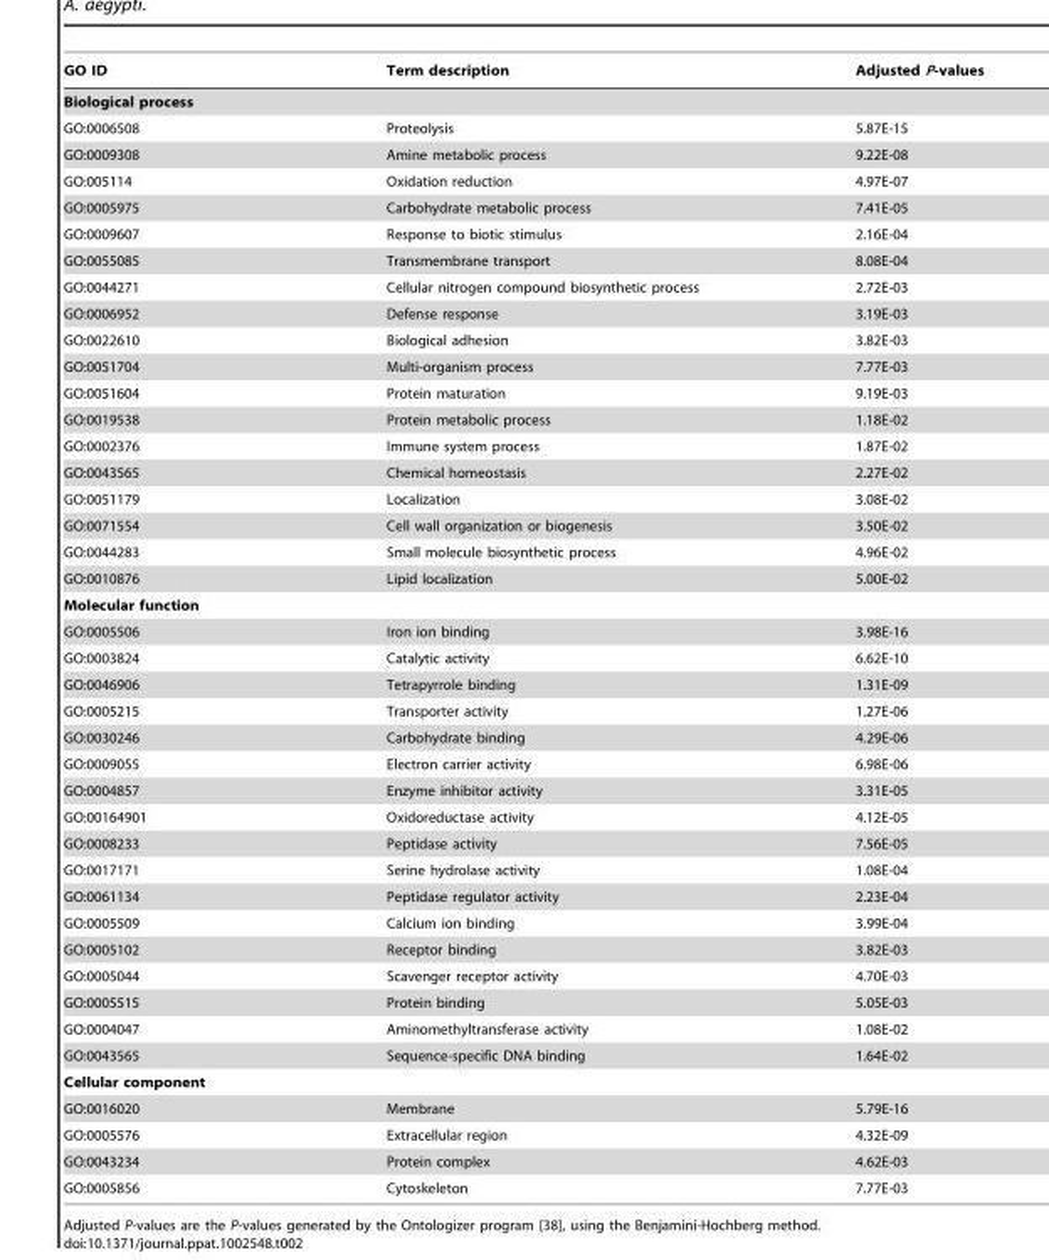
<table><thead><tr><td>GO ID</td><td>Term description</td><td>Adjusted P-values</td></tr></thead><tbody><tr><td colspan="3">Biological process</td></tr><tr><td>GO:0006508</td><td>Proteolysis</td><td>5.87E-15</td></tr><tr><td>GO:0009308</td><td>Amine metabolic process</td><td>9.22E-08</td></tr><tr><td>GO:005114</td><td>Oxidation reduction</td><td>4.97E-07</td></tr><tr><td>GO:0005975</td><td>Carbohydrate metabolic process</td><td>7.41E-05</td></tr><tr><td>GO:0009607</td><td>Response to biotic stimulus</td><td>2.16E-04</td></tr><tr><td>GO:0055085</td><td>Transmembrane transport</td><td>8.08E-04</td></tr><tr><td>GO:0044271</td><td>Cellular nitrogen compound biosynthetic process</td><td>2.72E-03</td></tr><tr><td>GO:0006952</td><td>Defense response</td><td>3.19E-03</td></tr><tr><td>GO:0022610</td><td>Biological adhesion</td><td>3.82E-03</td></tr><tr><td>GO:0051704</td><td>Multi-organism process</td><td>7.77E-03</td></tr><tr><td>GO:0051604</td><td>Protein maturation</td><td>9.19E-03</td></tr><tr><td>GO:0019538</td><td>Protein metabolic process</td><td>1.18E-02</td></tr><tr><td>GO:0002376</td><td>Immune system process</td><td>1.87E-02</td></tr><tr><td>GO:0043565</td><td>Chemical homeostasis</td><td>2.27E-02</td></tr><tr><td>GO:0051179</td><td>Localization</td><td>3.08E-02</td></tr><tr><td>GO:0071554</td><td>Cell wall organization or biogenesis</td><td>3.50E-02</td></tr><tr><td>GO:0044283</td><td>Small molecule biosynthetic process</td><td>4.96E-02</td></tr><tr><td>GO:0010876</td><td>Lipid localization</td><td>5.00E-02</td></tr><tr><td colspan="3">Molecular function</td></tr><tr><td>GO:0005506</td><td>Iron ion binding</td><td>3.98E-16</td></tr><tr><td>GO:0003824</td><td>Catalytic activity</td><td>6.62E-10</td></tr><tr><td>GO:0046906</td><td>Tetrapyrrole binding</td><td>1.31E-09</td></tr><tr><td>GO:0005215</td><td>Transporter activity</td><td>1.27E-06</td></tr><tr><td>GO:0030246</td><td>Carbohydrate binding</td><td>4.29E-06</td></tr><tr><td>GO:0009055</td><td>Electron carrier activity</td><td>6.98E-06</td></tr><tr><td>GO:0004857</td><td>Enzyme inhibitor activity</td><td>3.31E-05</td></tr><tr><td>GO:00164901</td><td>Oxidoreductase activity</td><td>4.12E-05</td></tr><tr><td>GO:0008233</td><td>Peptidase activity</td><td>7.56E-05</td></tr><tr><td>GO:0017171</td><td>Serine hydrolase activity</td><td>1.08E-04</td></tr><tr><td>GO:0061134</td><td>Peptidase regulator activity</td><td>2.23E-04</td></tr><tr><td>GO:0005509</td><td>Calcium ion binding</td><td>3.99E-04</td></tr><tr><td>GO:0005102</td><td>Receptor binding</td><td>3.82E-03</td></tr><tr><td>GO:0005044</td><td>Scavenger receptor activity</td><td>4.70E-03</td></tr><tr><td>GO:0005515</td><td>Protein binding</td><td>5.05E-03</td></tr><tr><td>GO:0004047</td><td>Aminomethyltransferase activity</td><td>1.08E-02</td></tr><tr><td>GO:0043565</td><td>Sequence-specific DNA binding</td><td>1.64E-02</td></tr><tr><td colspan="3">Cellular component</td></tr><tr><td>GO:0016020</td><td>Membrane</td><td>5.79E-16</td></tr><tr><td>GO:0005576</td><td>Extracellular region</td><td>4.32E-09</td></tr><tr><td>GO:0043234</td><td>Protein complex</td><td>4.62E-03</td></tr><tr><td>GO:0005856</td><td>Cytoskeleton</td><td>7.77E-03</td></tr></tbody></table>